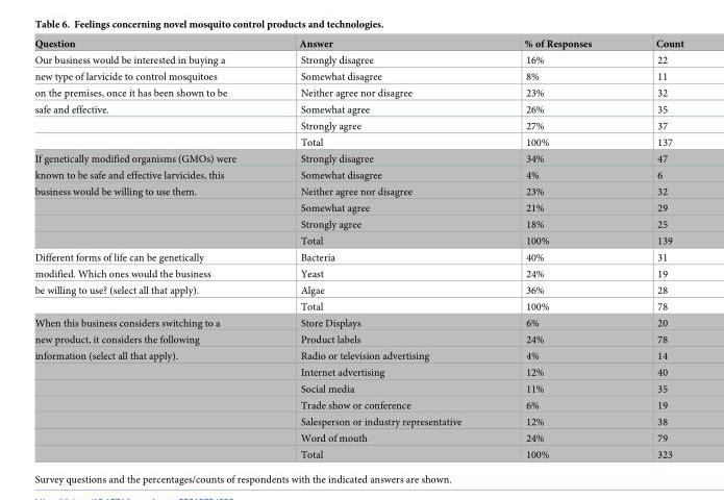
<table><thead><tr><td>Question</td><td>Answer</td><td>% of Responses</td><td>Count</td></tr></thead><tbody><tr><td>Our business would be interested in buying a</td><td>Strongly disagree</td><td>16%</td><td>22</td></tr><tr><td>new type of larvicide to control mosquitoes</td><td>Somewhat disagree</td><td>8%</td><td>11</td></tr><tr><td>on the premises, once it has been shown to be</td><td>Neither agree nor disagree</td><td>23%</td><td>32</td></tr><tr><td rowspan="3">safe and effective.</td><td>Somewhat agree</td><td>26%</td><td>35</td></tr><tr><td>Strongly agree</td><td>27%</td><td>37</td></tr><tr><td>Total</td><td>100%</td><td>137</td></tr><tr><td>If genetically modified organisms (GMOs) were</td><td>Strongly disagree</td><td>34%</td><td>47</td></tr><tr><td>known to be safe and effective larvicides, this</td><td>Somewhat disagree</td><td>4%</td><td>6</td></tr><tr><td rowspan="4">business would be willing to use them.</td><td>Neither agree nor disagree</td><td>23%</td><td>32</td></tr><tr><td>Somewhat agree</td><td>21%</td><td>29</td></tr><tr><td>Strongly agree</td><td>18%</td><td>25</td></tr><tr><td>Total</td><td>100%</td><td>139</td></tr><tr><td>Different forms of life can be genetically</td><td>Bacteria</td><td>40%</td><td>31</td></tr><tr><td>modified. Which ones would the business</td><td>Yeast</td><td>24%</td><td>19</td></tr><tr><td rowspan="2">be willing to use? (select all that apply).</td><td>Algae</td><td>36%</td><td>28</td></tr><tr><td>Total</td><td>100%</td><td>78</td></tr><tr><td>When this business considers switching to a</td><td>Store Displays</td><td>6%</td><td>20</td></tr><tr><td>new product, it considers the following</td><td>Product labels</td><td>24%</td><td>78</td></tr><tr><td rowspan="7">information (select all that apply).</td><td>Radio or television advertising</td><td>4%</td><td>14</td></tr><tr><td>Internet advertising</td><td>12%</td><td>40</td></tr><tr><td>Social media</td><td>11%</td><td>35</td></tr><tr><td>Trade show or conference</td><td>6%</td><td>19</td></tr><tr><td>Salesperson or industry representative</td><td>12%</td><td>38</td></tr><tr><td>Word of mouth</td><td>24%</td><td>79</td></tr><tr><td>Total</td><td>100%</td><td>323</td></tr></tbody></table>